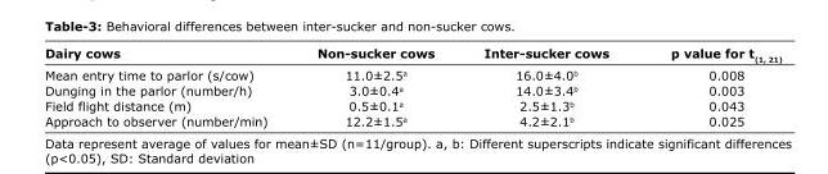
<table><thead><tr><td>Dairy cows</td><td>Non-sucker cows</td><td>Inter-sucker cows</td><td>p value for t<sub>(1, 21)</sub></td></tr></thead><tbody><tr><td>Mean entry time to parlor (s/cow)</td><td>11.0±2.5<sup>a</sup></td><td>16.0±4.0<sup>b</sup></td><td>0.008</td></tr><tr><td>Dunging in the parlor (number/h)</td><td>3.0±0.4<sup>a</sup></td><td>14.0±3.4<sup>b</sup></td><td>0.003</td></tr><tr><td>Field flight distance (m)</td><td>0.5±0.1<sup>a</sup></td><td>2.5±1.3<sup>b</sup></td><td>0.043</td></tr><tr><td>Approach to observer (number/min)</td><td>12.2±1.5<sup>a</sup></td><td>4.2±2.1<sup>b</sup></td><td>0.025</td></tr></tbody></table>